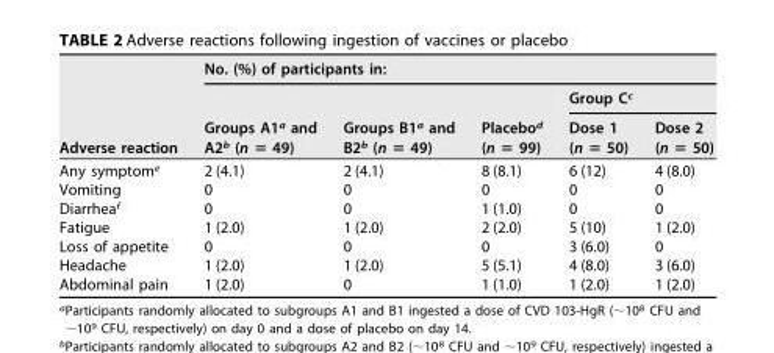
<table><thead><tr><td rowspan="3">Adverse reaction</td><td colspan="5">No. (%) of participants in:</td></tr><tr><td rowspan="2">Groups A1<sup>a</sup> and A2<sup>b</sup> (n = 49)</td><td rowspan="2">Groups B1<sup>a</sup> and B2<sup>b</sup> (n = 49)</td><td rowspan="2">Placebo<sup>d</sup> (n = 99)</td><td colspan="2">Group C<sup>c</sup></td></tr><tr><td>Dose 1 (n = 50)</td><td>Dose 2 (n = 50)</td></tr></thead><tbody><tr><td>Any symptom<sup>e</sup></td><td>2 (4.1)</td><td>2 (4.1)</td><td>8 (8.1)</td><td>6 (12)</td><td>4 (8.0)</td></tr><tr><td>Vomiting</td><td>0</td><td>0</td><td>0</td><td>0</td><td>0</td></tr><tr><td>Diarrhea<sup>f</sup></td><td>0</td><td>0</td><td>1 (1.0)</td><td>0</td><td>0</td></tr><tr><td>Fatigue</td><td>1 (2.0)</td><td>1 (2.0)</td><td>2 (2.0)</td><td>5 (10)</td><td>1 (2.0)</td></tr><tr><td>Loss of appetite</td><td>0</td><td>0</td><td>0</td><td>3 (6.0)</td><td>0</td></tr><tr><td>Headache</td><td>1 (2.0)</td><td>1 (2.0)</td><td>5 (5.1)</td><td>4 (8.0)</td><td>3 (6.0)</td></tr><tr><td>Abdominal pain</td><td>1 (2.0)</td><td>0</td><td>1 (1.0)</td><td>1 (2.0)</td><td>1 (2.0)</td></tr></tbody></table>